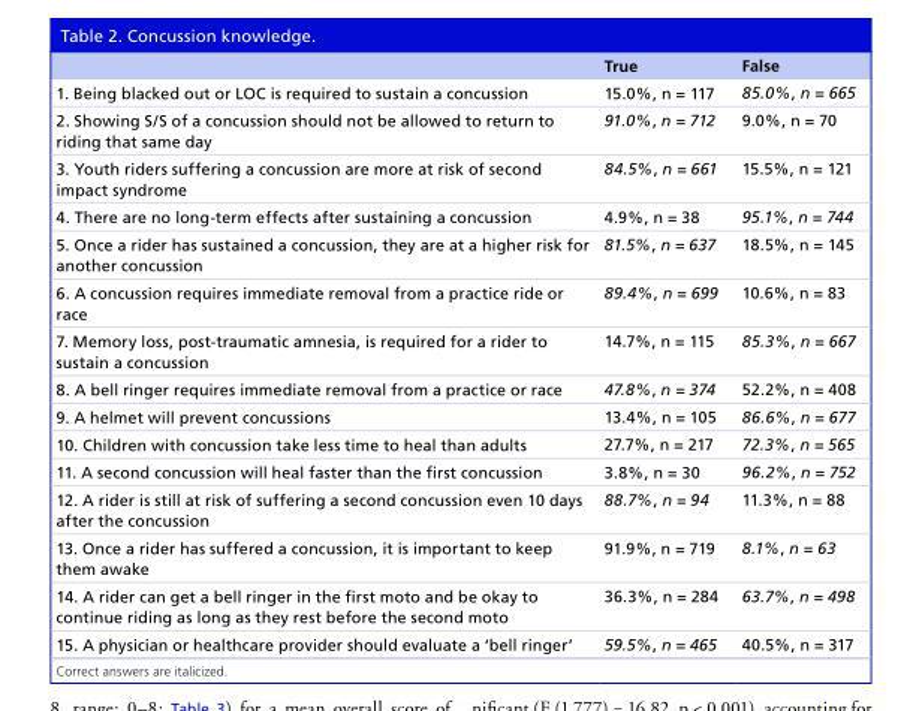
<table><thead><tr><td></td><td>True</td><td>False</td></tr></thead><tbody><tr><td>1. Being blacked out or LOC is required to sustain a concussion</td><td>15.0%, n = 117</td><td>85.0%, n = 665</td></tr><tr><td>2. Showing S/S of a concussion should not be allowed to return to riding that same day</td><td>91.0%, n = 712</td><td>9.0%, n = 70</td></tr><tr><td>3. Youth riders suffering a concussion are more at risk of second impact syndrome</td><td>84.5%, n = 661</td><td>15.5%, n = 121</td></tr><tr><td>4. There are no long-term effects after sustaining a concussion</td><td>4.9%, n = 38</td><td>95.1%, n = 744</td></tr><tr><td>5. Once a rider has sustained a concussion, they are at a higher risk for another concussion</td><td>81.5%, n = 637</td><td>18.5%, n = 145</td></tr><tr><td>6. A concussion requires immediate removal from a practice ride or race</td><td>89.4%, n = 699</td><td>10.6%, n = 83</td></tr><tr><td>7. Memory loss, post-traumatic amnesia, is required for a rider to sustain a concussion</td><td>14.7%, n = 115</td><td>85.3%, n = 667</td></tr><tr><td>8. A bell ringer requires immediate removal from a practice or race</td><td>47.8%, n = 374</td><td>52.2%, n = 408</td></tr><tr><td>9. A helmet will prevent concussions</td><td>13.4%, n = 105</td><td>86.6%, n = 677</td></tr><tr><td>10. Children with concussion take less time to heal than adults</td><td>27.7%, n = 217</td><td>72.3%, n = 565</td></tr><tr><td>11. A second concussion will heal faster than the first concussion</td><td>3.8%, n = 30</td><td>96.2%, n = 752</td></tr><tr><td>12. A rider is still at risk of suffering a second concussion even 10 days after the concussion</td><td>88.7%, n = 94</td><td>11.3%, n = 88</td></tr><tr><td>13. Once a rider has suffered a concussion, it is important to keep them awake</td><td>91.9%, n = 719</td><td>8.1%, n = 63</td></tr><tr><td>14. A rider can get a bell ringer in the first moto and be okay to continue riding as long as they rest before the second moto</td><td>36.3%, n = 284</td><td>63.7%, n = 498</td></tr><tr><td>15. A physician or healthcare provider should evaluate a ‘bell ringer’</td><td>59.5%, n = 465</td><td>40.5%, n = 317</td></tr></tbody></table>